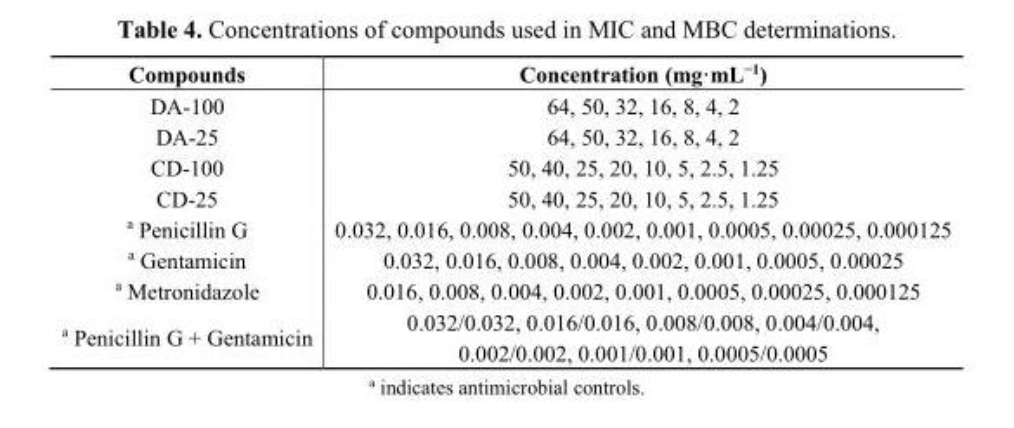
<table><thead><tr><td>Compounds</td><td>Concentration (mg·mL<sup>−1</sup>)</td></tr></thead><tbody><tr><td>DA-100</td><td>64, 50, 32, 16, 8, 4, 2</td></tr><tr><td>DA-25</td><td>64, 50, 32, 16, 8, 4, 2</td></tr><tr><td>CD-100</td><td>50, 40, 25, 20, 10, 5, 2.5, 1.25</td></tr><tr><td>CD-25</td><td>50, 40, 25, 20, 10, 5, 2.5, 1.25</td></tr><tr><td><sup>a</sup> Penicillin G</td><td>0.032, 0.016, 0.008, 0.004, 0.002, 0.001, 0.0005, 0.00025, 0.000125</td></tr><tr><td><sup>a</sup> Gentamicin</td><td>0.032, 0.016, 0.008, 0.004, 0.002, 0.001, 0.0005, 0.00025</td></tr><tr><td><sup>a</sup> Metronidazole</td><td>0.016, 0.008, 0.004, 0.002, 0.001, 0.0005, 0.00025, 0.000125</td></tr><tr><td><sup>a</sup> Penicillin G + Gentamicin</td><td>0.032/0.032, 0.016/0.016, 0.008/0.008, 0.004/0.004, 0.002/0.002, 0.001/0.001, 0.0005/0.0005</td></tr></tbody></table>